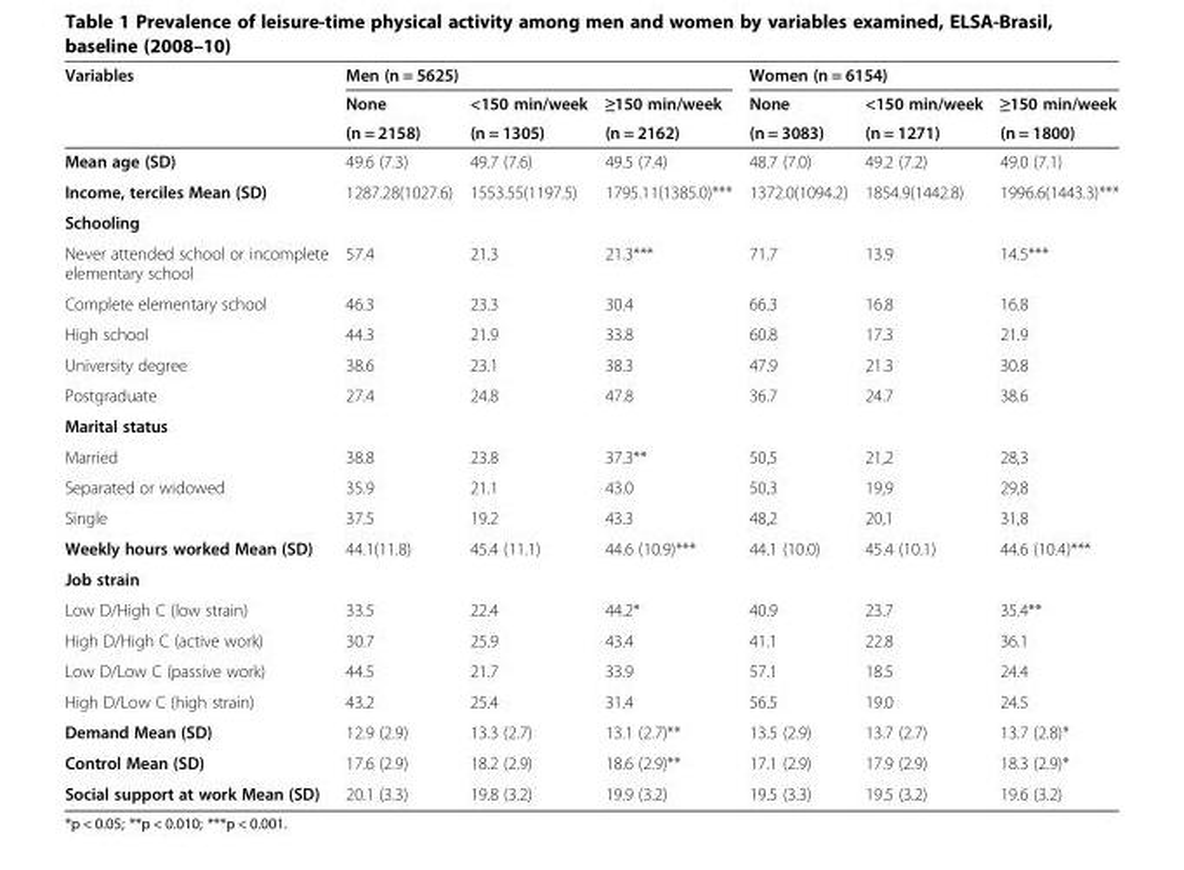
<table><thead><tr><td rowspan="3">Variables</td><td colspan="3">Men (n = 5625)</td><td colspan="3">Women (n = 6154)</td></tr><tr><td rowspan="2">None (n = 2158)</td><td rowspan="2">&lt;150 min/week (n = 1305)</td><td rowspan="2">≥150 min/week (n = 2162)</td><td rowspan="2">None (n = 3083)</td><td rowspan="2">&lt;150 min/week (n = 1271)</td><td rowspan="2">≥150 min/week (n = 1800)</td></tr><tr></tr></thead><tbody><tr><td>Mean age (SD)</td><td>49.6 (7.3)</td><td>49.7 (7.6)</td><td>49.5 (7.4)</td><td>48.7 (7.0)</td><td>49.2 (7.2)</td><td>49.0 (7.1)</td></tr><tr><td>Income, terciles Mean (SD)</td><td>1287.28(1027.6)</td><td>1553.55(1197.5)</td><td>1795.11(1385.0)***</td><td>1372.0(1094.2)</td><td>1854.9(1442.8)</td><td>1996.6(1443.3)***</td></tr><tr><td colspan="7">Schooling</td></tr><tr><td>Never attended school or incomplete elementary school</td><td>57.4</td><td>21.3</td><td>21.3***</td><td>71.7</td><td>13.9</td><td>14.5***</td></tr><tr><td>Complete elementary school</td><td>46.3</td><td>23.3</td><td>30.4</td><td>66.3</td><td>16.8</td><td>16.8</td></tr><tr><td>High school</td><td>44.3</td><td>21.9</td><td>33.8</td><td>60.8</td><td>17.3</td><td>21.9</td></tr><tr><td>University degree</td><td>38.6</td><td>23.1</td><td>38.3</td><td>47.9</td><td>21.3</td><td>30.8</td></tr><tr><td>Postgraduate</td><td>27.4</td><td>24.8</td><td>47.8</td><td>36.7</td><td>24.7</td><td>38.6</td></tr><tr><td colspan="7">Marital status</td></tr><tr><td>Married</td><td>38.8</td><td>23.8</td><td>37.3**</td><td>50,5</td><td>21,2</td><td>28,3</td></tr><tr><td>Separated or widowed</td><td>35.9</td><td>21.1</td><td>43.0</td><td>50,3</td><td>19,9</td><td>29,8</td></tr><tr><td>Single</td><td>37.5</td><td>19.2</td><td>43.3</td><td>48,2</td><td>20,1</td><td>31,8</td></tr><tr><td>Weekly hours worked Mean (SD)</td><td>44.1(11.8)</td><td>45.4 (11.1)</td><td>44.6 (10.9)***</td><td>44.1 (10.0)</td><td>45.4 (10.1)</td><td>44.6 (10.4)***</td></tr><tr><td colspan="7">Job strain</td></tr><tr><td>Low D/High C (low strain)</td><td>33.5</td><td>22.4</td><td>44.2*</td><td>40.9</td><td>23.7</td><td>35.4**</td></tr><tr><td>High D/High C (active work)</td><td>30.7</td><td>25.9</td><td>43.4</td><td>41.1</td><td>22.8</td><td>36.1</td></tr><tr><td>Low D/Low C (passive work)</td><td>44.5</td><td>21.7</td><td>33.9</td><td>57.1</td><td>18.5</td><td>24.4</td></tr><tr><td>High D/Low C (high strain)</td><td>43.2</td><td>25.4</td><td>31.4</td><td>56.5</td><td>19.0</td><td>24.5</td></tr><tr><td>Demand Mean (SD)</td><td>12.9 (2.9)</td><td>13.3 (2.7)</td><td>13.1 (2.7)**</td><td>13.5 (2.9)</td><td>13.7 (2.7)</td><td>13.7 (2.8)*</td></tr><tr><td>Control Mean (SD)</td><td>17.6 (2.9)</td><td>18.2 (2.9)</td><td>18.6 (2.9)**</td><td>17.1 (2.9)</td><td>17.9 (2.9)</td><td>18.3 (2.9)*</td></tr><tr><td>Social support at work Mean (SD)</td><td>20.1 (3.3)</td><td>19.8 (3.2)</td><td>19.9 (3.2)</td><td>19.5 (3.3)</td><td>19.5 (3.2)</td><td>19.6 (3.2)</td></tr></tbody></table>